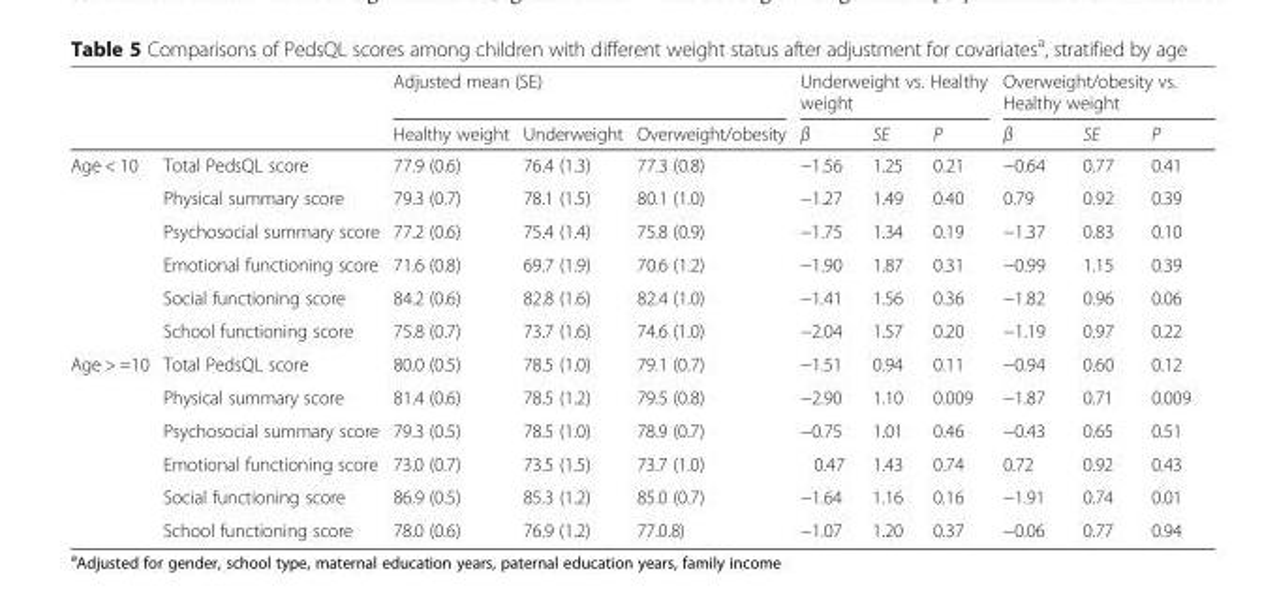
<table><thead><tr><td rowspan="2"></td><td rowspan="2"></td><td colspan="3">Adjusted mean (SE)</td><td colspan="3">Underweight vs. Healthy weight</td><td colspan="3">Overweight/obesity vs. Healthy weight</td></tr><tr><td>Healthy weight</td><td>Underweight</td><td>Overweight/obesity</td><td>β</td><td>SE</td><td>P</td><td>β</td><td>SE</td><td>P</td></tr></thead><tbody><tr><td rowspan="6">Age &lt; 10</td><td>Total PedsQL score</td><td>77.9 (0.6)</td><td>76.4 (1.3)</td><td>77.3 (0.8)</td><td>−1.56</td><td>1.25</td><td>0.21</td><td>−0.64</td><td>0.77</td><td>0.41</td></tr><tr><td>Physical summary score</td><td>79.3 (0.7)</td><td>78.1 (1.5)</td><td>80.1 (1.0)</td><td>−1.27</td><td>1.49</td><td>0.40</td><td>0.79</td><td>0.92</td><td>0.39</td></tr><tr><td>Psychosocial summary score</td><td>77.2 (0.6)</td><td>75.4 (1.4)</td><td>75.8 (0.9)</td><td>−1.75</td><td>1.34</td><td>0.19</td><td>−1.37</td><td>0.83</td><td>0.10</td></tr><tr><td>Emotional functioning score</td><td>71.6 (0.8)</td><td>69.7 (1.9)</td><td>70.6 (1.2)</td><td>−1.90</td><td>1.87</td><td>0.31</td><td>−0.99</td><td>1.15</td><td>0.39</td></tr><tr><td>Social functioning score</td><td>84.2 (0.6)</td><td>82.8 (1.6)</td><td>82.4 (1.0)</td><td>−1.41</td><td>1.56</td><td>0.36</td><td>−1.82</td><td>0.96</td><td>0.06</td></tr><tr><td>School functioning score</td><td>75.8 (0.7)</td><td>73.7 (1.6)</td><td>74.6 (1.0)</td><td>−2.04</td><td>1.57</td><td>0.20</td><td>−1.19</td><td>0.97</td><td>0.22</td></tr><tr><td rowspan="6">Age &gt; =10</td><td>Total PedsQL score</td><td>80.0 (0.5)</td><td>78.5 (1.0)</td><td>79.1 (0.7)</td><td>−1.51</td><td>0.94</td><td>0.11</td><td>−0.94</td><td>0.60</td><td>0.12</td></tr><tr><td>Physical summary score</td><td>81.4 (0.6)</td><td>78.5 (1.2)</td><td>79.5 (0.8)</td><td>−2.90</td><td>1.10</td><td>0.009</td><td>−1.87</td><td>0.71</td><td>0.009</td></tr><tr><td>Psychosocial summary score</td><td>79.3 (0.5)</td><td>78.5 (1.0)</td><td>78.9 (0.7)</td><td>−0.75</td><td>1.01</td><td>0.46</td><td>−0.43</td><td>0.65</td><td>0.51</td></tr><tr><td>Emotional functioning score</td><td>73.0 (0.7)</td><td>73.5 (1.5)</td><td>73.7 (1.0)</td><td>0.47</td><td>1.43</td><td>0.74</td><td>0.72</td><td>0.92</td><td>0.43</td></tr><tr><td>Social functioning score</td><td>86.9 (0.5)</td><td>85.3 (1.2)</td><td>85.0 (0.7)</td><td>−1.64</td><td>1.16</td><td>0.16</td><td>−1.91</td><td>0.74</td><td>0.01</td></tr><tr><td>School functioning score</td><td>78.0 (0.6)</td><td>76.9 (1.2)</td><td>77.0.8)</td><td>−1.07</td><td>1.20</td><td>0.37</td><td>−0.06</td><td>0.77</td><td>0.94</td></tr></tbody></table>